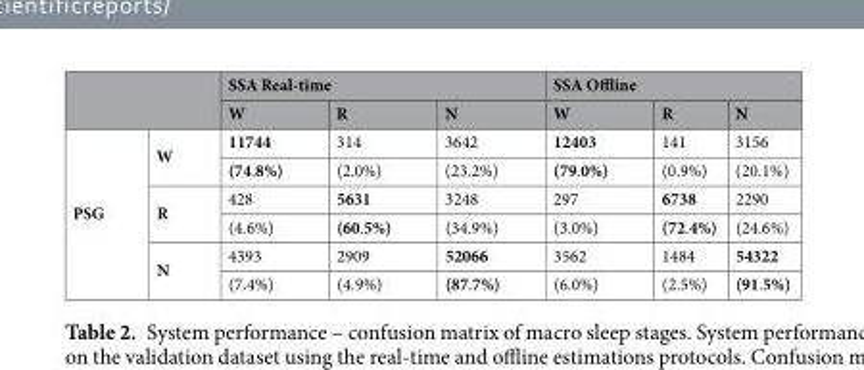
<table><thead><tr><td rowspan="2"></td><td rowspan="2"></td><td colspan="3">SSA Real-time</td><td colspan="3">SSA Offline</td></tr><tr><td>W</td><td>R</td><td>N</td><td>W</td><td>R</td><td>N</td></tr></thead><tbody><tr><td rowspan="6">PSG</td><td rowspan="2">W</td><td>11744</td><td>314</td><td>3642</td><td>12403</td><td>141</td><td>3156</td></tr><tr><td>(74.8%)</td><td>(2.0%)</td><td>(23.2%)</td><td>(79.0%)</td><td>(0.9%)</td><td>(20.1%)</td></tr><tr><td rowspan="2">R</td><td>428</td><td>5631</td><td>3248</td><td>297</td><td>6738</td><td>2290</td></tr><tr><td>(4.6%)</td><td>(60.5%)</td><td>(34.9%)</td><td>(3.0%)</td><td>(72.4%)</td><td>(24.6%)</td></tr><tr><td rowspan="2">N</td><td>4393</td><td>2909</td><td>52066</td><td>3562</td><td>1484</td><td>54322</td></tr><tr><td>(7.4%)</td><td>(4.9%)</td><td>(87.7%)</td><td>(6.0%)</td><td>(2.5%)</td><td>(91.5%)</td></tr></tbody></table>